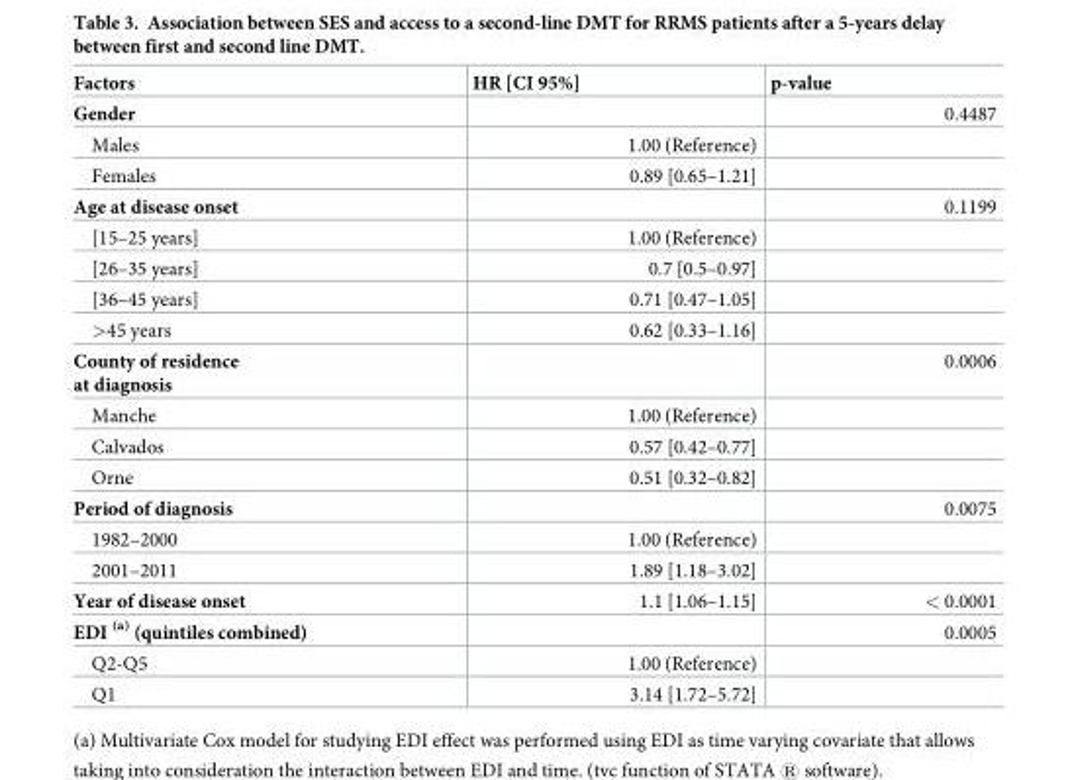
<table><thead><tr><td>Factors</td><td>HR [CI 95%]</td><td>p-value</td></tr></thead><tbody><tr><td>Gender</td><td></td><td>0.4487</td></tr><tr><td>Males</td><td>1.00 (Reference)</td><td></td></tr><tr><td>Females</td><td>0.89 [0.65–1.21]</td><td></td></tr><tr><td>Age at disease onset</td><td></td><td>0.1199</td></tr><tr><td>[15–25 years]</td><td>1.00 (Reference)</td><td></td></tr><tr><td>[26–35 years]</td><td>0.7 [0.5–0.97]</td><td></td></tr><tr><td>[36–45 years]</td><td>0.71 [0.47–1.05]</td><td></td></tr><tr><td>&gt;45 years</td><td>0.62 [0.33–1.16]</td><td></td></tr><tr><td>County of residence at diagnosis</td><td></td><td>0.0006</td></tr><tr><td>Manche</td><td>1.00 (Reference)</td><td></td></tr><tr><td>Calvados</td><td>0.57 [0.42–0.77]</td><td></td></tr><tr><td>Orne</td><td>0.51 [0.32–0.82]</td><td></td></tr><tr><td>Period of diagnosis</td><td></td><td>0.0075</td></tr><tr><td>1982–2000</td><td>1.00 (Reference)</td><td></td></tr><tr><td>2001–2011</td><td>1.89 [1.18–3.02]</td><td></td></tr><tr><td>Year of disease onset</td><td>1.1 [1.06–1.15]</td><td>&lt; 0.0001</td></tr><tr><td>EDI <sup>(a)</sup> (quintiles combined)</td><td></td><td>0.0005</td></tr><tr><td>Q2-Q5</td><td>1.00 (Reference)</td><td></td></tr><tr><td>Q1</td><td>3.14 [1.72–5.72]</td><td></td></tr></tbody></table>